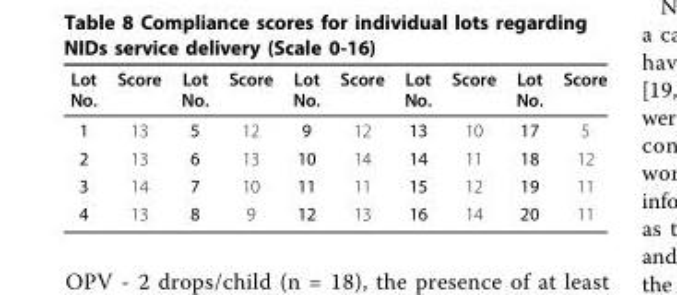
<table><thead><tr><td>Lot No.</td><td>Score</td><td>Lot No.</td><td>Score</td><td>Lot No.</td><td>Score</td><td>Lot No.</td><td>Score</td><td>Lot No.</td><td>Score</td></tr></thead><tbody><tr><td>1</td><td>13</td><td>5</td><td>12</td><td>9</td><td>12</td><td>13</td><td>10</td><td>17</td><td>5</td></tr><tr><td>2</td><td>13</td><td>6</td><td>13</td><td>10</td><td>14</td><td>14</td><td>11</td><td>18</td><td>12</td></tr><tr><td>3</td><td>14</td><td>7</td><td>10</td><td>11</td><td>11</td><td>15</td><td>12</td><td>19</td><td>11</td></tr><tr><td>4</td><td>13</td><td>8</td><td>9</td><td>12</td><td>13</td><td>16</td><td>14</td><td>20</td><td>11</td></tr></tbody></table>